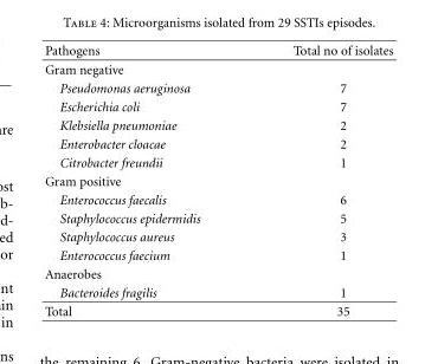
<table><thead><tr><td>Pathogens</td><td>Total no of isolates</td></tr></thead><tbody><tr><td colspan="2">Gram negative</td></tr><tr><td>Pseudomonas aeruginosa</td><td>7</td></tr><tr><td>Escherichia coli</td><td>7</td></tr><tr><td>Klebsiella pneumoniae</td><td>2</td></tr><tr><td>Enterobacter cloacae</td><td>2</td></tr><tr><td>Citrobacter freundii</td><td>1</td></tr><tr><td colspan="2">Gram positive</td></tr><tr><td>Enterococcus faecalis</td><td>6</td></tr><tr><td>Staphylococcus epidermidis</td><td>5</td></tr><tr><td>Staphylococcus aureus</td><td>3</td></tr><tr><td>Enterococcus faecium</td><td>1</td></tr><tr><td colspan="2">Anaerobes</td></tr><tr><td>Bacteroides fragilis</td><td>1</td></tr><tr><td>Total</td><td>35</td></tr></tbody></table>